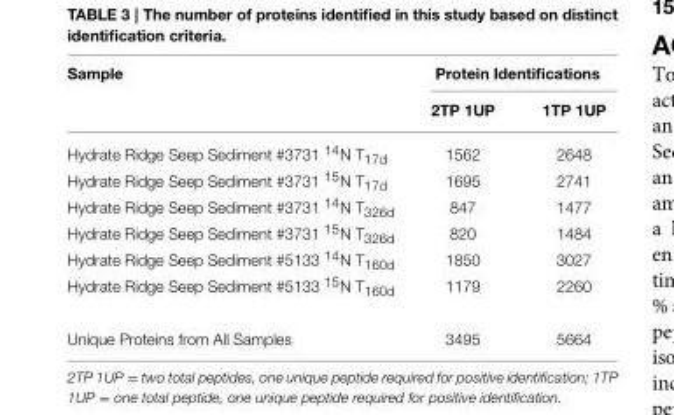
<table><thead><tr><td rowspan="2">Sample</td><td colspan="2">Protein Identifications</td></tr><tr><td>2TP 1UP</td><td>1TP 1UP</td></tr></thead><tbody><tr><td>Hydrate Ridge Seep Sediment #3731 <sup>14</sup>N T<sub>17d</sub></td><td>1562</td><td>2648</td></tr><tr><td>Hydrate Ridge Seep Sediment #3731 <sup>15</sup>N T<sub>17d</sub></td><td>1695</td><td>2741</td></tr><tr><td>Hydrate Ridge Seep Sediment #3731 <sup>14</sup>N T<sub>326d</sub></td><td>847</td><td>1477</td></tr><tr><td>Hydrate Ridge Seep Sediment #3731 <sup>15</sup>N T<sub>326d</sub></td><td>820</td><td>1484</td></tr><tr><td>Hydrate Ridge Seep Sediment #5133 <sup>14</sup>N T<sub>160d</sub></td><td>1850</td><td>3027</td></tr><tr><td>Hydrate Ridge Seep Sediment #5133 <sup>15</sup>N T<sub>160d</sub></td><td>1179</td><td>2260</td></tr><tr><td>Unique Proteins from All Samples</td><td>3495</td><td>5664</td></tr></tbody></table>